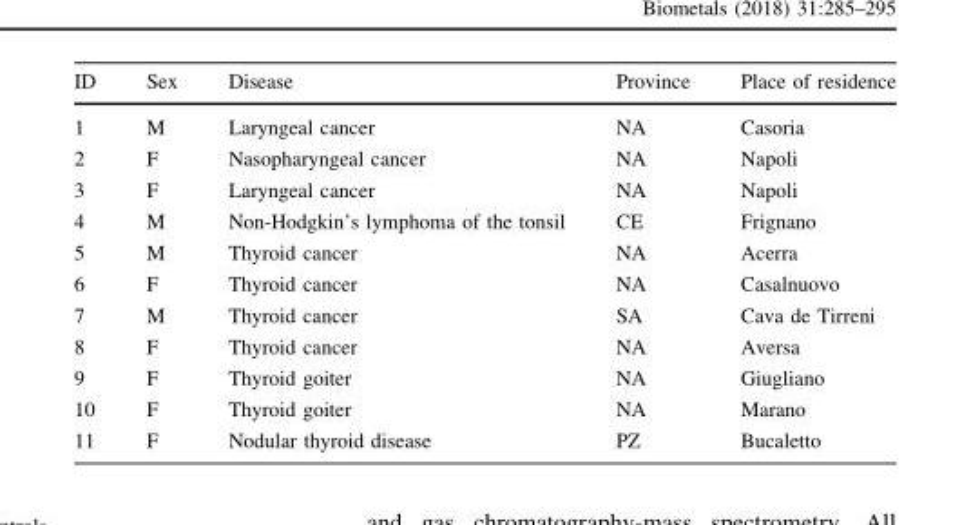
<table><thead><tr><td>ID</td><td>Sex</td><td>Disease</td><td>Province</td><td>Place of residence</td></tr></thead><tbody><tr><td>1</td><td>M</td><td>Laryngeal cancer</td><td>NA</td><td>Casoria</td></tr><tr><td>2</td><td>F</td><td>Nasopharyngeal cancer</td><td>NA</td><td>Napoli</td></tr><tr><td>3</td><td>F</td><td>Laryngeal cancer</td><td>NA</td><td>Napoli</td></tr><tr><td>4</td><td>M</td><td>Non-Hodgkin’s lymphoma of the tonsil</td><td>CE</td><td>Frignano</td></tr><tr><td>5</td><td>M</td><td>Thyroid cancer</td><td>NA</td><td>Acerra</td></tr><tr><td>6</td><td>F</td><td>Thyroid cancer</td><td>NA</td><td>Casalnuovo</td></tr><tr><td>7</td><td>M</td><td>Thyroid cancer</td><td>SA</td><td>Cava de Tirreni</td></tr><tr><td>8</td><td>F</td><td>Thyroid cancer</td><td>NA</td><td>Aversa</td></tr><tr><td>9</td><td>F</td><td>Thyroid goiter</td><td>NA</td><td>Giugliano</td></tr><tr><td>10</td><td>F</td><td>Thyroid goiter</td><td>NA</td><td>Marano</td></tr><tr><td>11</td><td>F</td><td>Nodular thyroid disease</td><td>PZ</td><td>Bucaletto</td></tr></tbody></table>